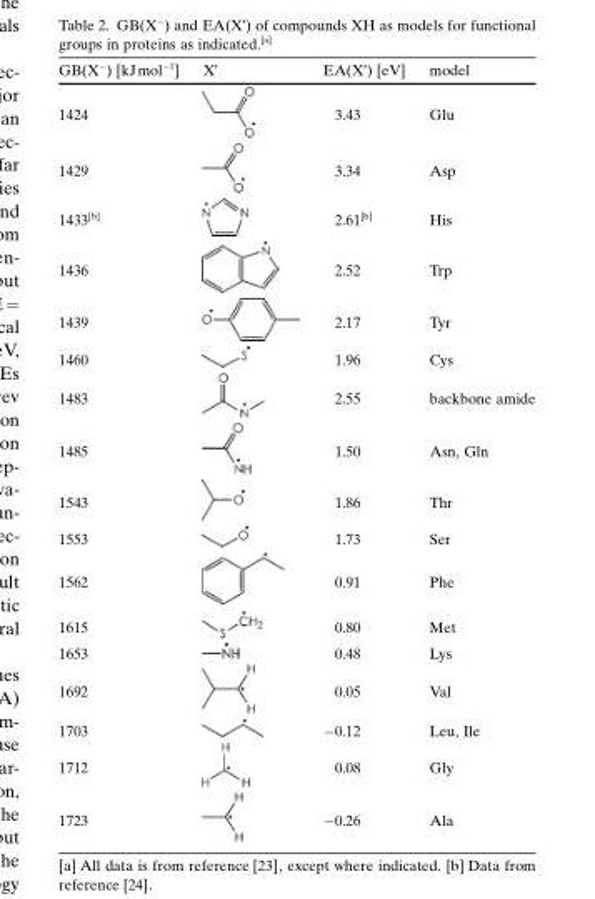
<table><thead><tr><td>GB(X<sup>−</sup>) [kJmol<sup>−1</sup>]</td><td>X<sup>•</sup></td><td>EA(X<sup>•</sup>) [eV]</td><td>model</td></tr></thead><tbody><tr><td>1424</td><td></td><td>3.43</td><td>Glu</td></tr><tr><td>1429</td><td></td><td>3.34</td><td>Asp</td></tr><tr><td>1433<sup>[b]</sup></td><td></td><td>2.61<sup>[b]</sup></td><td>His</td></tr><tr><td>1436</td><td></td><td>2.52</td><td>Trp</td></tr><tr><td>1439</td><td></td><td>2.17</td><td>Tyr</td></tr><tr><td>1460</td><td></td><td>1.96</td><td>Cys</td></tr><tr><td>1483</td><td></td><td>2.55</td><td>backbone amide</td></tr><tr><td>1485</td><td></td><td>1.50</td><td>Asn, Gln</td></tr><tr><td>1543</td><td></td><td>1.86</td><td>Thr</td></tr><tr><td>1553</td><td></td><td>1.73</td><td>Ser</td></tr><tr><td>1562</td><td></td><td>0.91</td><td>Phe</td></tr><tr><td>1615</td><td></td><td>0.80</td><td>Met</td></tr><tr><td>1653</td><td></td><td>0.48</td><td>Lys</td></tr><tr><td>1692</td><td></td><td>0.05</td><td>Val</td></tr><tr><td>1703</td><td></td><td>−0.12</td><td>Leu, Ile</td></tr><tr><td>1712</td><td></td><td>0.08</td><td>Gly</td></tr><tr><td>1723</td><td></td><td>−0.26</td><td>Ala</td></tr></tbody></table>